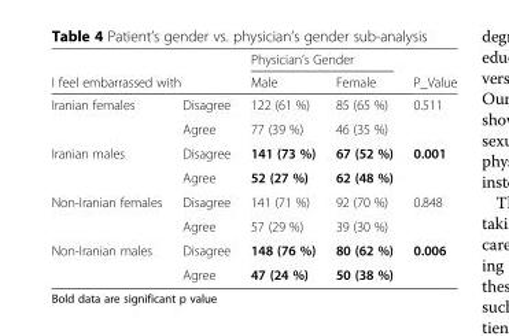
<table><thead><tr><td></td><td></td><td colspan="2">Physician’s Gender</td><td rowspan="2">P_Value</td></tr><tr><td colspan="2">I feel embarrassed with</td><td>Male</td><td>Female</td></tr></thead><tbody><tr><td rowspan="2">Iranian females</td><td>Disagree</td><td>122 (61 %)</td><td>85 (65 %)</td><td rowspan="2">0.511</td></tr><tr><td>Agree</td><td>77 (39 %)</td><td>46 (35 %)</td></tr><tr><td rowspan="2">Iranian males</td><td>Disagree</td><td>141 (73 %)</td><td>67 (52 %)</td><td rowspan="2">0.001</td></tr><tr><td>Agree</td><td>52 (27 %)</td><td>62 (48 %)</td></tr><tr><td rowspan="2">Non-Iranian females</td><td>Disagree</td><td>141 (71 %)</td><td>92 (70 %)</td><td rowspan="2">0.848</td></tr><tr><td>Agree</td><td>57 (29 %)</td><td>39 (30 %)</td></tr><tr><td rowspan="2">Non-Iranian males</td><td>Disagree</td><td>148 (76 %)</td><td>80 (62 %)</td><td rowspan="2">0.006</td></tr><tr><td>Agree</td><td>47 (24 %)</td><td>50 (38 %)</td></tr></tbody></table>